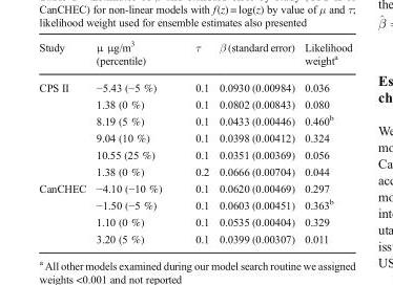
<table><thead><tr><td>Study</td><td>μ μg/m<sup>3</sup> (percentile)</td><td>τ</td><td>β (standard error)</td><td>Likelihood weight<sup>a</sup></td></tr></thead><tbody><tr><td rowspan="6">CPS II</td><td>−5.43 (−5 %)</td><td>0.1</td><td>0.0930 (0.00984)</td><td>0.036</td></tr><tr><td>1.38 (0 %)</td><td>0.1</td><td>0.0802 (0.00843)</td><td>0.080</td></tr><tr><td>8.19 (5 %)</td><td>0.1</td><td>0.0433 (0.00446)</td><td>0.460<sup>b</sup></td></tr><tr><td>9.04 (10 %)</td><td>0.1</td><td>0.0398 (0.00412)</td><td>0.324</td></tr><tr><td>10.55 (25 %)</td><td>0.1</td><td>0.0351 (0.00369)</td><td>0.056</td></tr><tr><td>1.38 (0 %)</td><td>0.2</td><td>0.0666 (0.00704)</td><td>0.044</td></tr><tr><td rowspan="4">CanCHEC</td><td>−4.10 (−10 %)</td><td>0.1</td><td>0.0620 (0.00469)</td><td>0.297</td></tr><tr><td>−1.50 (−5 %)</td><td>0.1</td><td>0.0603 (0.00451)</td><td>0.363<sup>b</sup></td></tr><tr><td>1.10 (0 %)</td><td>0.1</td><td>0.0535 (0.00404)</td><td>0.329</td></tr><tr><td>3.20 (5 %)</td><td>0.1</td><td>0.0399 (0.00307)</td><td>0.011</td></tr></tbody></table>